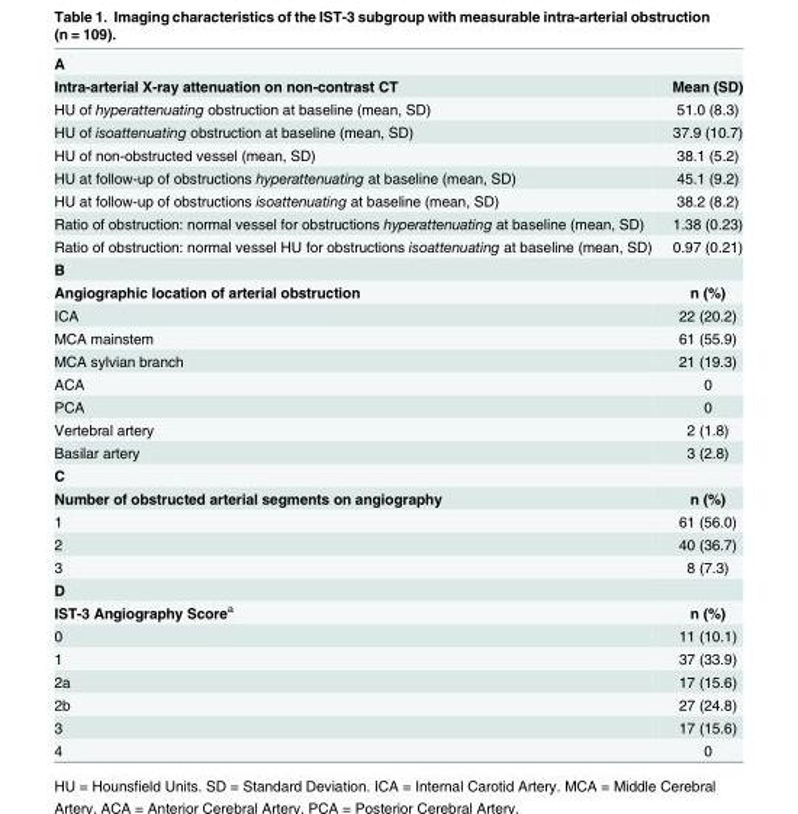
<table><tbody><tr><td colspan="2">A</td></tr><tr><td>Intra-arterial X-ray attenuation on non-contrast CT</td><td>Mean (SD)</td></tr><tr><td>HU of hyperattenuating obstruction at baseline (mean, SD)</td><td>51.0 (8.3)</td></tr><tr><td>HU of isoattenuating obstruction at baseline (mean, SD)</td><td>37.9 (10.7)</td></tr><tr><td>HU of non-obstructed vessel (mean, SD)</td><td>38.1 (5.2)</td></tr><tr><td>HU at follow-up of obstructions hyperattenuating at baseline (mean, SD)</td><td>45.1 (9.2)</td></tr><tr><td>HU at follow-up of obstructions isoattenuating at baseline (mean, SD)</td><td>38.2 (8.2)</td></tr><tr><td>Ratio of obstruction: normal vessel for obstructions hyperattenuating at baseline (mean, SD)</td><td>1.38 (0.23)</td></tr><tr><td>Ratio of obstruction: normal vessel HU for obstructions isoattenuating at baseline (mean, SD)</td><td>0.97 (0.21)</td></tr><tr><td colspan="2">B</td></tr><tr><td>Angiographic location of arterial obstruction</td><td>n (%)</td></tr><tr><td>ICA</td><td>22 (20.2)</td></tr><tr><td>MCA mainstem</td><td>61 (55.9)</td></tr><tr><td>MCA sylvian branch</td><td>21 (19.3)</td></tr><tr><td>ACA</td><td>0</td></tr><tr><td>PCA</td><td>0</td></tr><tr><td>Vertebral artery</td><td>2 (1.8)</td></tr><tr><td>Basilar artery</td><td>3 (2.8)</td></tr><tr><td colspan="2">C</td></tr><tr><td>Number of obstructed arterial segments on angiography</td><td>n (%)</td></tr><tr><td>1</td><td>61 (56.0)</td></tr><tr><td>2</td><td>40 (36.7)</td></tr><tr><td>3</td><td>8 (7.3)</td></tr><tr><td colspan="2">D</td></tr><tr><td>IST-3 Angiography Score<sup>a</sup></td><td>n (%)</td></tr><tr><td>0</td><td>11 (10.1)</td></tr><tr><td>1</td><td>37 (33.9)</td></tr><tr><td>2a</td><td>17 (15.6)</td></tr><tr><td>2b</td><td>27 (24.8)</td></tr><tr><td>3</td><td>17 (15.6)</td></tr><tr><td>4</td><td>0</td></tr></tbody></table>